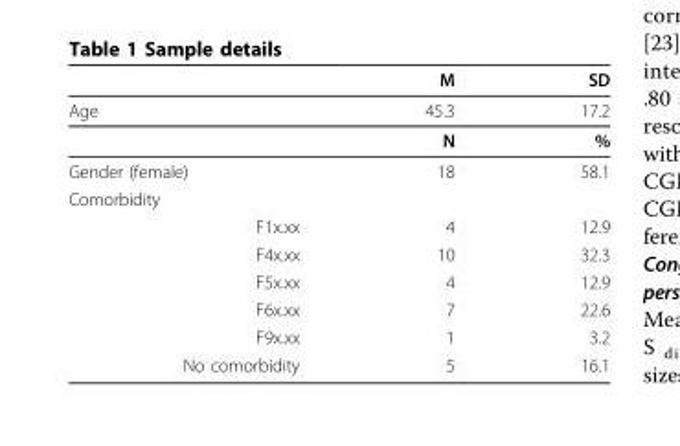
<table><thead><tr><td></td><td>M</td><td>SD</td></tr></thead><tbody><tr><td rowspan="2">Age</td><td>45.3</td><td>17.2</td></tr><tr><td>N</td><td>%</td></tr><tr><td>Gender (female)</td><td>18</td><td>58.1</td></tr><tr><td colspan="3">Comorbidity</td></tr><tr><td>F1x.xx</td><td>4</td><td>12.9</td></tr><tr><td>F4x.xx</td><td>10</td><td>32.3</td></tr><tr><td>F5x.xx</td><td>4</td><td>12.9</td></tr><tr><td>F6x.xx</td><td>7</td><td>22.6</td></tr><tr><td>F9x.xx</td><td>1</td><td>3.2</td></tr><tr><td>No comorbidity</td><td>5</td><td>16.1</td></tr></tbody></table>